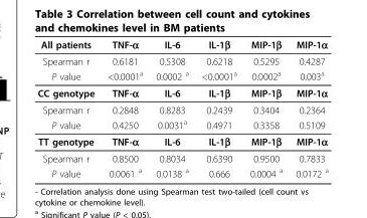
<table><thead><tr><td>All patients</td><td>TNF-α</td><td>IL-6</td><td>IL-1β</td><td>MIP-1β</td><td>MIP-1α</td></tr></thead><tbody><tr><td>Spearman r</td><td>0.6181</td><td>0.5308</td><td>0.6218</td><td>0.5295</td><td>0.4287</td></tr><tr><td>P value</td><td>&lt;0.0001<sup>a</sup></td><td>0.0002 <sup>a</sup></td><td>&lt;0.0001<sup>a</sup></td><td>0.0002<sup>a</sup></td><td>0.003<sup>a</sup></td></tr><tr><td>CC genotype</td><td>TNF-α</td><td>IL-6</td><td>IL-1β</td><td>MIP-1β</td><td>MIP-1α</td></tr><tr><td>Spearman r</td><td>0.2848</td><td>0.8283</td><td>0.2439</td><td>0.3404</td><td>0.2364</td></tr><tr><td>P value</td><td>0.4250</td><td>0.0031<sup>a</sup></td><td>0.4971</td><td>0.3358</td><td>0.5109</td></tr><tr><td>TT genotype</td><td>TNF-α</td><td>IL-6</td><td>IL-1β</td><td>MIP-1β</td><td>MIP-1α</td></tr><tr><td>Spearman r</td><td>0.8500</td><td>0.8034</td><td>0.6390</td><td>0.9500</td><td>0.7833</td></tr><tr><td>P value</td><td>0.0061 <sup>a</sup></td><td>0.0138 <sup>a</sup></td><td>0.666</td><td>0.0004 <sup>a</sup></td><td>0.0172 <sup>a</sup></td></tr></tbody></table>